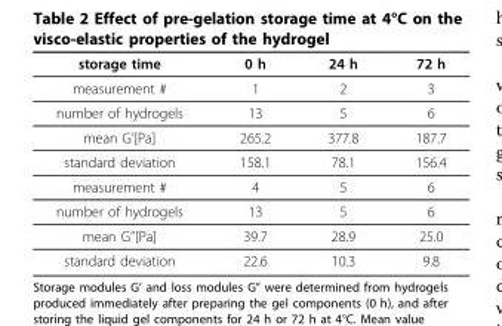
<table><thead><tr><td>storage time</td><td>0 h</td><td>24 h</td><td>72 h</td></tr></thead><tbody><tr><td>measurement #</td><td>1</td><td>2</td><td>3</td></tr><tr><td>number of hydrogels</td><td>13</td><td>5</td><td>6</td></tr><tr><td>mean G’[Pa]</td><td>265.2</td><td>377.8</td><td>187.7</td></tr><tr><td>standard deviation</td><td>158.1</td><td>78.1</td><td>156.4</td></tr><tr><td>measurement #</td><td>4</td><td>5</td><td>6</td></tr><tr><td>number of hydrogels</td><td>13</td><td>5</td><td>6</td></tr><tr><td>mean G’’[Pa]</td><td>39.7</td><td>28.9</td><td>25.0</td></tr><tr><td>standard deviation</td><td>22.6</td><td>10.3</td><td>9.8</td></tr></tbody></table>